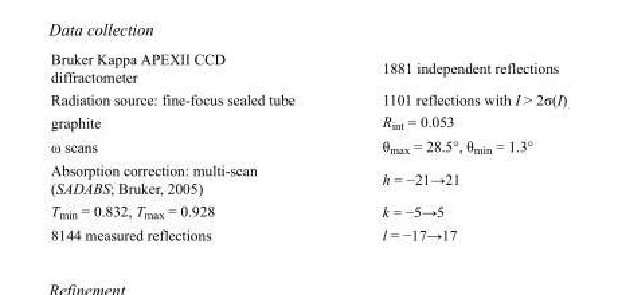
<table><tbody><tr><td>Bruker Kappa APEXII CCD diffractometer</td><td>1881 independent reflections</td></tr><tr><td>Radiation source: fine-focus sealed tube</td><td>1101 reflections with I &gt; 2σ(I)</td></tr><tr><td>graphite</td><td>R<sub>int</sub> = 0.053</td></tr><tr><td>ω scans</td><td>θ<sub>max</sub> = 28.5°, θ<sub>min</sub> = 1.3°</td></tr><tr><td>Absorption correction: multi-scan (SADABS; Bruker, 2005)</td><td>h = −21→21</td></tr><tr><td>T<sub>min</sub> = 0.832, T<sub>max</sub> = 0.928</td><td>k = −5→5</td></tr><tr><td>8144 measured reflections</td><td>l = −17→17</td></tr></tbody></table>